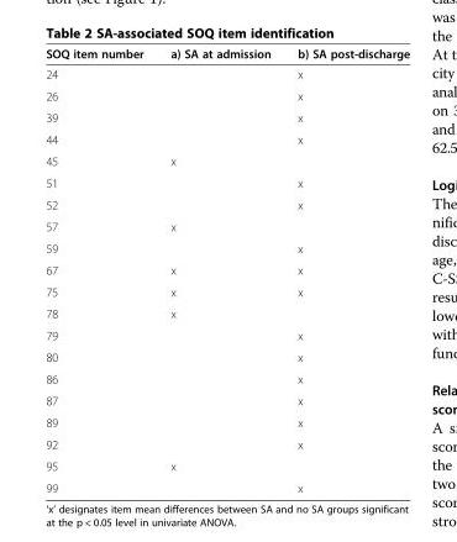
<table><thead><tr><td>SOQ item number</td><td>a) SA at admission</td><td>b) SA post-discharge</td></tr></thead><tbody><tr><td>24</td><td></td><td>x</td></tr><tr><td>26</td><td></td><td>x</td></tr><tr><td>39</td><td></td><td>x</td></tr><tr><td>44</td><td></td><td>x</td></tr><tr><td>45</td><td>x</td><td></td></tr><tr><td>51</td><td></td><td>x</td></tr><tr><td>52</td><td></td><td>x</td></tr><tr><td>57</td><td>x</td><td></td></tr><tr><td>59</td><td></td><td>x</td></tr><tr><td>67</td><td>x</td><td>x</td></tr><tr><td>75</td><td>x</td><td>x</td></tr><tr><td>78</td><td>x</td><td></td></tr><tr><td>79</td><td></td><td>x</td></tr><tr><td>80</td><td></td><td>x</td></tr><tr><td>86</td><td></td><td>x</td></tr><tr><td>87</td><td></td><td>x</td></tr><tr><td>89</td><td></td><td>x</td></tr><tr><td>92</td><td></td><td>x</td></tr><tr><td>95</td><td>x</td><td></td></tr><tr><td>99</td><td></td><td>x</td></tr></tbody></table>